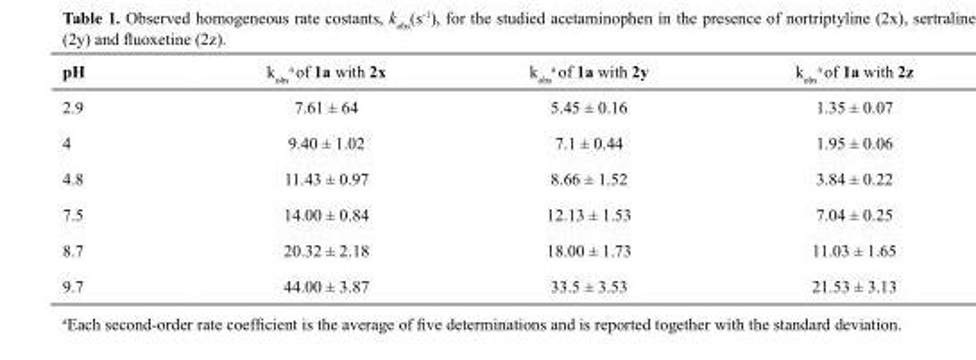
<table><thead><tr><td>pH</td><td>k<sub>obs</sub> <sup>a</sup> of 1a with 2x</td><td>k<sub>obs</sub> <sup>a</sup> of 1a with 2y</td><td>k<sub>obs</sub> <sup>a</sup> of 1a with 2z</td></tr></thead><tbody><tr><td>2.9</td><td>7.61 ± 64</td><td>5.45 ± 0.16</td><td>1.35 ± 0.07</td></tr><tr><td>4</td><td>9.40 ± 1.02</td><td>7.1 ± 0.44</td><td>1.95 ± 0.06</td></tr><tr><td>4.8</td><td>11.43 ± 0.97</td><td>8.66 ± 1.52</td><td>3.84 ± 0.22</td></tr><tr><td>7.5</td><td>14.00 ± 0.84</td><td>12.13 ± 1.53</td><td>7.04 ± 0.25</td></tr><tr><td>8.7</td><td>20.32 ± 2.18</td><td>18.00 ± 1.73</td><td>11.03 ± 1.65</td></tr><tr><td>9.7</td><td>44.00 ± 3.87</td><td>33.5 ± 3.53</td><td>21.53 ± 3.13</td></tr></tbody></table>